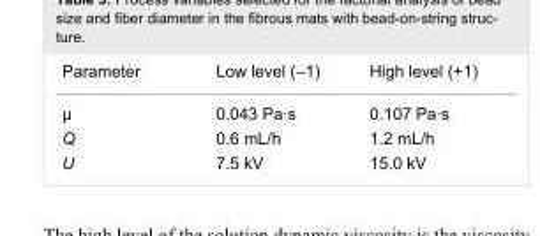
<table><tbody><tr><td>Parameter</td><td>Low level (–1)</td><td>High level (+1)</td></tr><tr><td>µ</td><td>0.043 Pa·s</td><td>0.107 Pa·s</td></tr><tr><td>Q</td><td>0.6 mL/h</td><td>1.2 mL/h</td></tr><tr><td>U</td><td>7.5 kV</td><td>15.0 kV</td></tr></tbody></table>